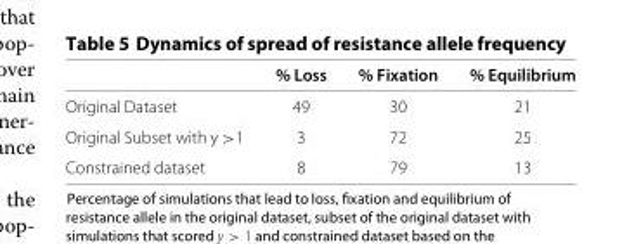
<table><thead><tr><td></td><td>% Loss</td><td>% Fixation</td><td>% Equilibrium</td></tr></thead><tbody><tr><td>Original Dataset</td><td>49</td><td>30</td><td>21</td></tr><tr><td>Original Subset with y &gt;1</td><td>3</td><td>72</td><td>25</td></tr><tr><td>Constrained dataset</td><td>8</td><td>79</td><td>13</td></tr></tbody></table>